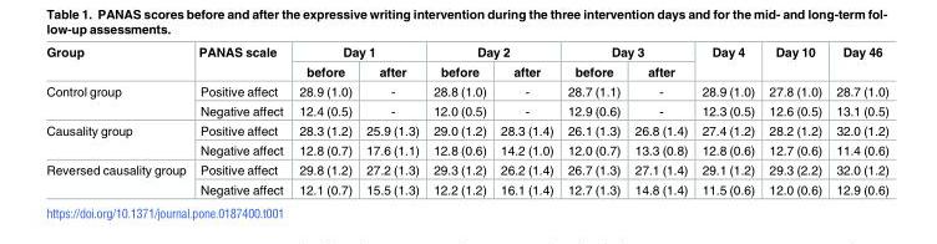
<table><thead><tr><td rowspan="2">Group</td><td rowspan="2">PANAS scale</td><td colspan="2">Day 1</td><td colspan="2">Day 2</td><td colspan="2">Day 3</td><td rowspan="2">Day 4</td><td rowspan="2">Day 10</td><td rowspan="2">Day 46</td></tr><tr><td>before</td><td>after</td><td>before</td><td>after</td><td>before</td><td>after</td></tr></thead><tbody><tr><td rowspan="2">Control group</td><td>Positive affect</td><td>28.9 (1.0)</td><td>-</td><td>28.8 (1.0)</td><td>-</td><td>28.7 (1.1)</td><td>-</td><td>28.9 (1.0)</td><td>27.8 (1.0)</td><td>28.7 (1.0)</td></tr><tr><td>Negative affect</td><td>12.4 (0.5)</td><td>-</td><td>12.0 (0.5)</td><td>-</td><td>12.9 (0.6)</td><td>-</td><td>12.3 (0.5)</td><td>12.6 (0.5)</td><td>13.1 (0.5)</td></tr><tr><td rowspan="2">Causality group</td><td>Positive affect</td><td>28.3 (1.2)</td><td>25.9 (1.3)</td><td>29.0 (1.2)</td><td>28.3 (1.4)</td><td>26.1 (1.3)</td><td>26.8 (1.4)</td><td>27.4 (1.2)</td><td>28.2 (1.2)</td><td>32.0 (1.2)</td></tr><tr><td>Negative affect</td><td>12.8 (0.7)</td><td>17.6 (1.1)</td><td>12.8 (0.6)</td><td>14.2 (1.0)</td><td>12.0 (0.7)</td><td>13.3 (0.8)</td><td>12.8 (0.6)</td><td>12.7 (0.6)</td><td>11.4 (0.6)</td></tr><tr><td rowspan="2">Reversed causality group</td><td>Positive affect</td><td>29.8 (1.2)</td><td>27.2 (1.3)</td><td>29.3 (1.2)</td><td>26.2 (1.4)</td><td>26.7 (1.3)</td><td>27.1 (1.4)</td><td>29.1 (1.2)</td><td>29.3 (2.2)</td><td>32.0 (1.2)</td></tr><tr><td>Negative affect</td><td>12.1 (0.7)</td><td>15.5 (1.3)</td><td>12.2 (1.2)</td><td>16.1 (1.4)</td><td>12.7 (1.3)</td><td>14.8 (1.4)</td><td>11.5 (0.6)</td><td>12.0 (0.6)</td><td>12.9 (0.6)</td></tr></tbody></table>